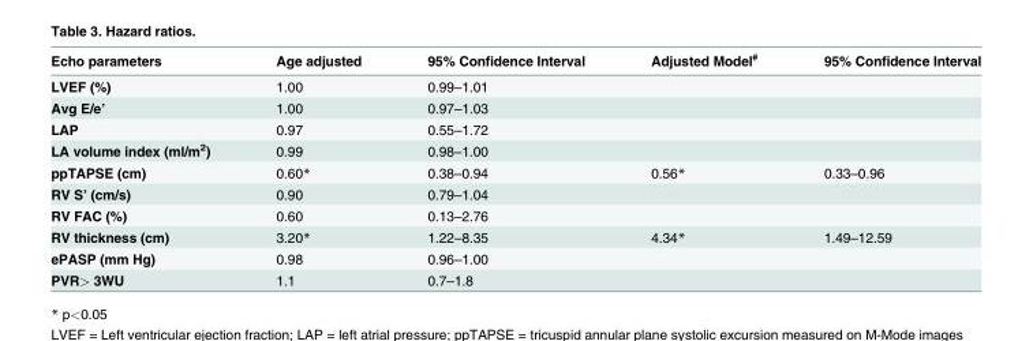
<table><thead><tr><td>Echo parameters</td><td>Age adjusted</td><td>95% Confidence Interval</td><td>Adjusted Model<sup>#</sup></td><td>95% Confidence Interval</td></tr></thead><tbody><tr><td>LVEF (%)</td><td>1.00</td><td>0.99–1.01</td><td></td><td></td></tr><tr><td>Avg E/e’</td><td>1.00</td><td>0.97–1.03</td><td></td><td></td></tr><tr><td>LAP</td><td>0.97</td><td>0.55–1.72</td><td></td><td></td></tr><tr><td>LA volume index (ml/m<sup>2</sup>)</td><td>0.99</td><td>0.98–1.00</td><td></td><td></td></tr><tr><td>ppTAPSE (cm)</td><td>0.60*</td><td>0.38–0.94</td><td>0.56*</td><td>0.33–0.96</td></tr><tr><td>RV S’ (cm/s)</td><td>0.90</td><td>0.79–1.04</td><td></td><td></td></tr><tr><td>RV FAC (%)</td><td>0.60</td><td>0.13–2.76</td><td></td><td></td></tr><tr><td>RV thickness (cm)</td><td>3.20*</td><td>1.22–8.35</td><td>4.34*</td><td>1.49–12.59</td></tr><tr><td>ePASP (mm Hg)</td><td>0.98</td><td>0.96–1.00</td><td></td><td></td></tr><tr><td>PVR&gt; 3WU</td><td>1.1</td><td>0.7–1.8</td><td></td><td></td></tr></tbody></table>